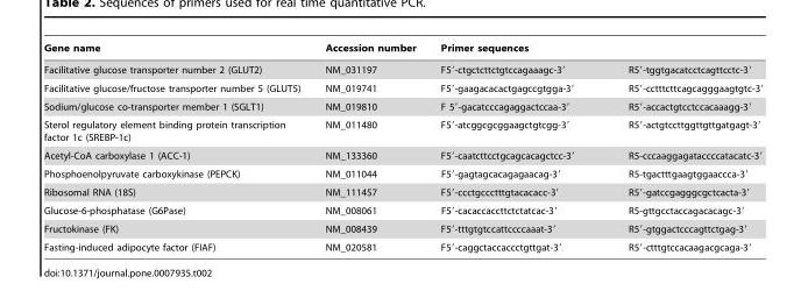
<table><thead><tr><td rowspan="2">Gene name Facilitative glucose transporter number 2 (GLUT2)</td><td rowspan="2">Accession number NM_031197</td><td colspan="2">Primer sequences</td></tr><tr><td>F5′-ctgctcttctgtccagaaagc-3′</td><td>R5′-tggtgacatcctcagttcctc-3′</td></tr></thead><tbody><tr><td>Facilitative glucose/fructose transporter number 5 (GLUT5)</td><td>NM_019741</td><td>F5′-gaagacacactgagccgtgga-3′</td><td>R5′-cctttcttcagcagggaagtgtc-3′</td></tr><tr><td>Sodium/glucose co-transporter member 1 (SGLT1)</td><td>NM_019810</td><td>F 5′-gacatcccagaggactccaa-3′</td><td>R5′-accactgtcctccacaaagg-3′</td></tr><tr><td>Sterol regulatory element binding protein transcription factor 1c (SREBP-1c)</td><td>NM_011480</td><td>F5′-atcggcgcggaagctgtcgg-3′</td><td>R5′-actgtccttggttgttgatgagt-3′</td></tr><tr><td>Acetyl-CoA carboxylase 1 (ACC-1)</td><td>NM_133360</td><td>F5′-caatcttcctgcagcacagctcc-3′</td><td>R5-cccaaggagataccccatacatc-3′</td></tr><tr><td>Phosphoenolpyruvate carboxykinase (PEPCK)</td><td>NM_011044</td><td>F5′-gagtagcacagagaacag-3′</td><td>R5-tgactttgaagtggaaccca-3′</td></tr><tr><td>Ribosomal RNA (18S)</td><td>NM_111457</td><td>F5′-ccctgccctttgtacacacc-3′</td><td>R5′-gatccgagggcgctcacta-3′</td></tr><tr><td>Glucose-6-phosphatase (G6Pase)</td><td>NM_008061</td><td>F5′-cacaccaccttctctatcac-3′</td><td>R5-gttgcctaccagacacagc-3′</td></tr><tr><td>Fructokinase (FK)</td><td>NM_008439</td><td>F5′-tttgtgtccattccccaaat-3′</td><td>R5′-gtggactcccagttctgag-3′</td></tr><tr><td>Fasting-induced adipocyte factor (FIAF)</td><td>NM_020581</td><td>F5′-caggctaccaccctgttgat-3′</td><td>R5′-ctttgtccacaagacgcaga-3′</td></tr></tbody></table>